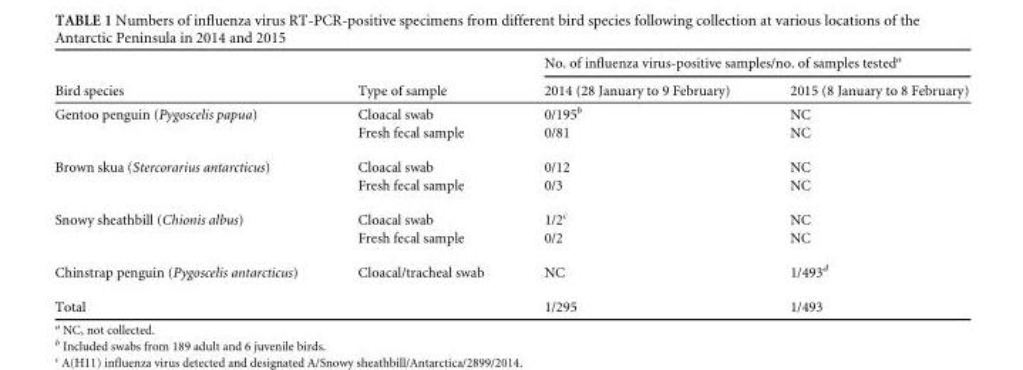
<table><thead><tr><td rowspan="2">Bird species</td><td rowspan="2">Type of sample</td><td colspan="2">No. of influenza virus-positive samples/no. of samples tested<sup>a</sup></td></tr><tr><td>2014 (28 January to 9 February)</td><td>2015 (8 January to 8 February)</td></tr></thead><tbody><tr><td rowspan="2">Gentoo penguin (Pygoscelis papua)</td><td>Cloacal swab</td><td>0/195<sup>b</sup></td><td>NC</td></tr><tr><td>Fresh fecal sample</td><td>0/81</td><td>NC</td></tr><tr><td rowspan="2">Brown skua (Stercorarius antarcticus)</td><td>Cloacal swab</td><td>0/12</td><td>NC</td></tr><tr><td>Fresh fecal sample</td><td>0/3</td><td>NC</td></tr><tr><td rowspan="2">Snowy sheathbill (Chionis albus)</td><td>Cloacal swab</td><td>1/2<sup>c</sup></td><td>NC</td></tr><tr><td>Fresh fecal sample</td><td>0/2</td><td>NC</td></tr><tr><td>Chinstrap penguin (Pygoscelis antarcticus)</td><td>Cloacal/tracheal swab</td><td>NC</td><td>1/493<sup>d</sup></td></tr><tr><td>Total</td><td></td><td>1/295</td><td>1/493</td></tr></tbody></table>